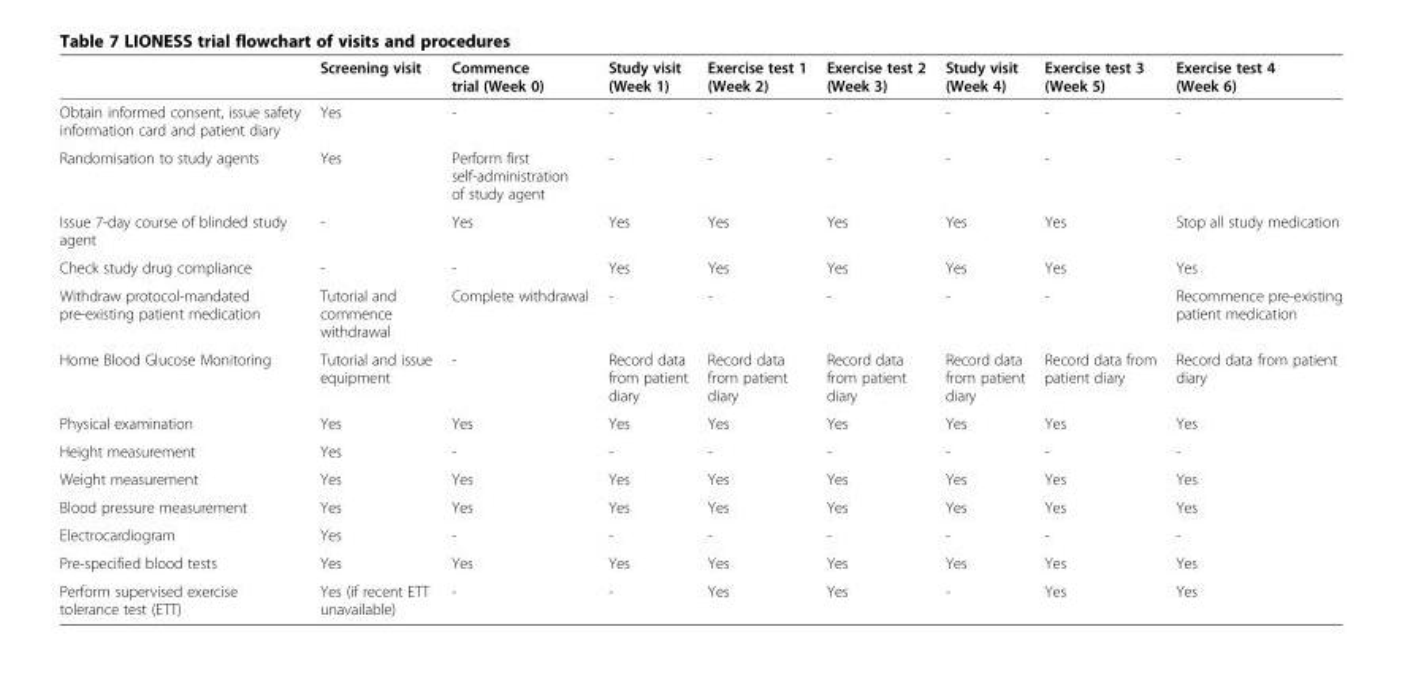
<table><thead><tr><td></td><td>Screening visit</td><td>Commence trial (Week 0)</td><td>Study visit (Week 1)</td><td>Exercise test 1 (Week 2)</td><td>Exercise test 2 (Week 3)</td><td>Study visit (Week 4)</td><td>Exercise test 3 (Week 5)</td><td>Exercise test 4 (Week 6)</td></tr></thead><tbody><tr><td>Obtain informed consent, issue safety information card and patient diary</td><td>Yes</td><td>-</td><td>-</td><td>-</td><td>-</td><td>-</td><td>-</td><td>-</td></tr><tr><td>Randomisation to study agents</td><td>Yes</td><td>Perform first self-administration of study agent</td><td>-</td><td>-</td><td>-</td><td>-</td><td>-</td><td>-</td></tr><tr><td>Issue 7-day course of blinded study agent</td><td>-</td><td>Yes</td><td>Yes</td><td>Yes</td><td>Yes</td><td>Yes</td><td>Yes</td><td>Stop all study medication</td></tr><tr><td>Check study drug compliance</td><td>-</td><td>-</td><td>Yes</td><td>Yes</td><td>Yes</td><td>Yes</td><td>Yes</td><td>Yes</td></tr><tr><td>Withdraw protocol-mandated pre-existing patient medication</td><td>Tutorial and commence withdrawal</td><td>Complete withdrawal</td><td>-</td><td>-</td><td>-</td><td>-</td><td>-</td><td>Recommence pre-existing patient medication</td></tr><tr><td>Home Blood Glucose Monitoring</td><td>Tutorial and issue equipment</td><td>-</td><td>Record data from patient diary</td><td>Record data from patient diary</td><td>Record data from patient diary</td><td>Record data from patient diary</td><td>Record data from patient diary</td><td>Record data from patient diary</td></tr><tr><td>Physical examination</td><td>Yes</td><td>Yes</td><td>Yes</td><td>Yes</td><td>Yes</td><td>Yes</td><td>Yes</td><td>Yes</td></tr><tr><td>Height measurement</td><td>Yes</td><td>-</td><td>-</td><td>-</td><td>-</td><td>-</td><td>-</td><td>-</td></tr><tr><td>Weight measurement</td><td>Yes</td><td>Yes</td><td>Yes</td><td>Yes</td><td>Yes</td><td>Yes</td><td>Yes</td><td>Yes</td></tr><tr><td>Blood pressure measurement</td><td>Yes</td><td>Yes</td><td>Yes</td><td>Yes</td><td>Yes</td><td>Yes</td><td>Yes</td><td>Yes</td></tr><tr><td>Electrocardiogram</td><td>Yes</td><td>-</td><td>-</td><td>-</td><td>-</td><td>-</td><td>-</td><td>-</td></tr><tr><td>Pre-specified blood tests</td><td>Yes</td><td>Yes</td><td>Yes</td><td>Yes</td><td>Yes</td><td>Yes</td><td>Yes</td><td>Yes</td></tr><tr><td>Perform supervised exercise tolerance test (ETT)</td><td>Yes (if recent ETT unavailable)</td><td>-</td><td>-</td><td>Yes</td><td>Yes</td><td>-</td><td>Yes</td><td>Yes</td></tr></tbody></table>